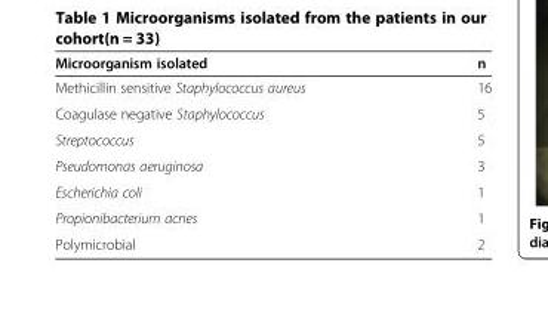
<table><thead><tr><td>Microorganism isolated</td><td>n</td></tr></thead><tbody><tr><td>Methicillin sensitive Staphylococcus aureus</td><td>16</td></tr><tr><td>Coagulase negative Staphylococcus</td><td>5</td></tr><tr><td>Streptococcus</td><td>5</td></tr><tr><td>Pseudomonas aeruginosa</td><td>3</td></tr><tr><td>Escherichia coli</td><td>1</td></tr><tr><td>Propionibacterium acnes</td><td>1</td></tr><tr><td>Polymicrobial</td><td>2</td></tr></tbody></table>